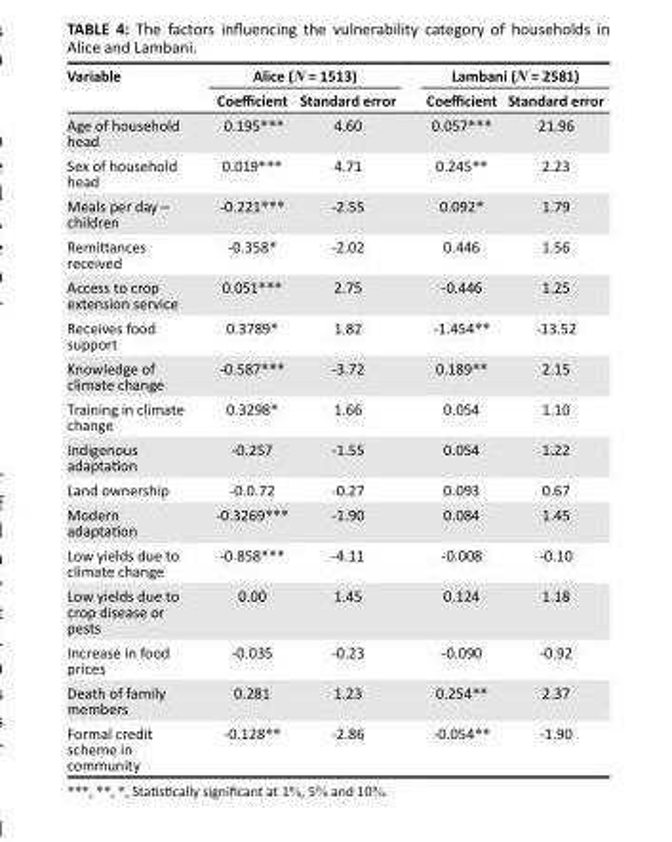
<table><thead><tr><td rowspan="2">Variable</td><td colspan="2">Alice (N = 1513)</td><td colspan="2">Lambani (N = 2581)</td></tr><tr><td>Coefficient</td><td>Standard error</td><td>Coefficient</td><td>Standard error</td></tr></thead><tbody><tr><td>Age of household head</td><td>0.195***</td><td>4.60</td><td>0.057***</td><td>21.96</td></tr><tr><td>Sex of household head</td><td>0.019***</td><td>4.71</td><td>0.245**</td><td>2.23</td></tr><tr><td>Meals per day – children</td><td>-0.221***</td><td>-2.55</td><td>0.092*</td><td>1.79</td></tr><tr><td>Remittances received</td><td>-0.358*</td><td>-2.02</td><td>0.446</td><td>1.56</td></tr><tr><td>Access to crop extension service</td><td>0.051***</td><td>2.75</td><td>-0.446</td><td>1.25</td></tr><tr><td>Receives food support</td><td>0.3789*</td><td>1.82</td><td>-1.454**</td><td>-13.52</td></tr><tr><td>Knowledge of climate change</td><td>-0.587***</td><td>-3.72</td><td>0.189**</td><td>2.15</td></tr><tr><td>Training in climate change</td><td>0.3298*</td><td>1.66</td><td>0.054</td><td>1.10</td></tr><tr><td>Indigenous adaptation</td><td>-0.257</td><td>-1.55</td><td>0.054</td><td>1.22</td></tr><tr><td>Land ownership</td><td>-0.0.72</td><td>-0.27</td><td>0.093</td><td>0.67</td></tr><tr><td>Modern adaptation</td><td>-0.3269***</td><td>-1.90</td><td>0.084</td><td>1.45</td></tr><tr><td>Low yields due to climate change</td><td>-0.858***</td><td>-4.11</td><td>-0.008</td><td>-0.10</td></tr><tr><td>Low yields due to crop disease or pests</td><td>0.00</td><td>1.45</td><td>0.124</td><td>1.18</td></tr><tr><td>Increase in food prices</td><td>-0.035</td><td>-0.23</td><td>-0.090</td><td>-0.92</td></tr><tr><td>Death of family members</td><td>0.281</td><td>1.23</td><td>0.254**</td><td>2.37</td></tr><tr><td>Formal credit scheme in community</td><td>-0.128**</td><td>-2.86</td><td>-0.054**</td><td>-1.90</td></tr></tbody></table>